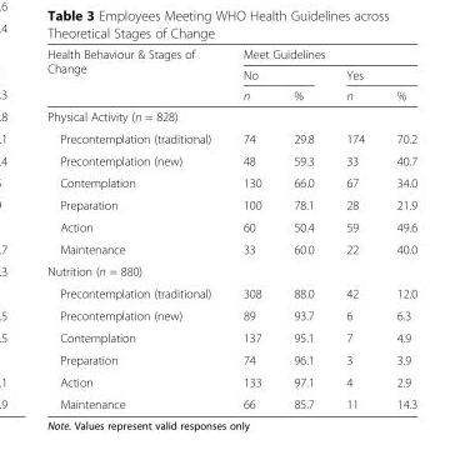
<table><thead><tr><td rowspan="3">Health Behaviour &amp; Stages of Change</td><td colspan="4">Meet Guidelines</td></tr><tr><td colspan="2">No</td><td colspan="2">Yes</td></tr><tr><td>n</td><td>%</td><td>n</td><td>%</td></tr></thead><tbody><tr><td colspan="5">Physical Activity (n = 828)</td></tr><tr><td>Precontemplation (traditional)</td><td>74</td><td>29.8</td><td>174</td><td>70.2</td></tr><tr><td>Precontemplation (new)</td><td>48</td><td>59.3</td><td>33</td><td>40.7</td></tr><tr><td>Contemplation</td><td>130</td><td>66.0</td><td>67</td><td>34.0</td></tr><tr><td>Preparation</td><td>100</td><td>78.1</td><td>28</td><td>21.9</td></tr><tr><td>Action</td><td>60</td><td>50.4</td><td>59</td><td>49.6</td></tr><tr><td>Maintenance</td><td>33</td><td>60.0</td><td>22</td><td>40.0</td></tr><tr><td colspan="5">Nutrition (n = 880)</td></tr><tr><td>Precontemplation (traditional)</td><td>308</td><td>88.0</td><td>42</td><td>12.0</td></tr><tr><td>Precontemplation (new)</td><td>89</td><td>93.7</td><td>6</td><td>6.3</td></tr><tr><td>Contemplation</td><td>137</td><td>95.1</td><td>7</td><td>4.9</td></tr><tr><td>Preparation</td><td>74</td><td>96.1</td><td>3</td><td>3.9</td></tr><tr><td>Action</td><td>133</td><td>97.1</td><td>4</td><td>2.9</td></tr><tr><td>Maintenance</td><td>66</td><td>85.7</td><td>11</td><td>14.3</td></tr></tbody></table>